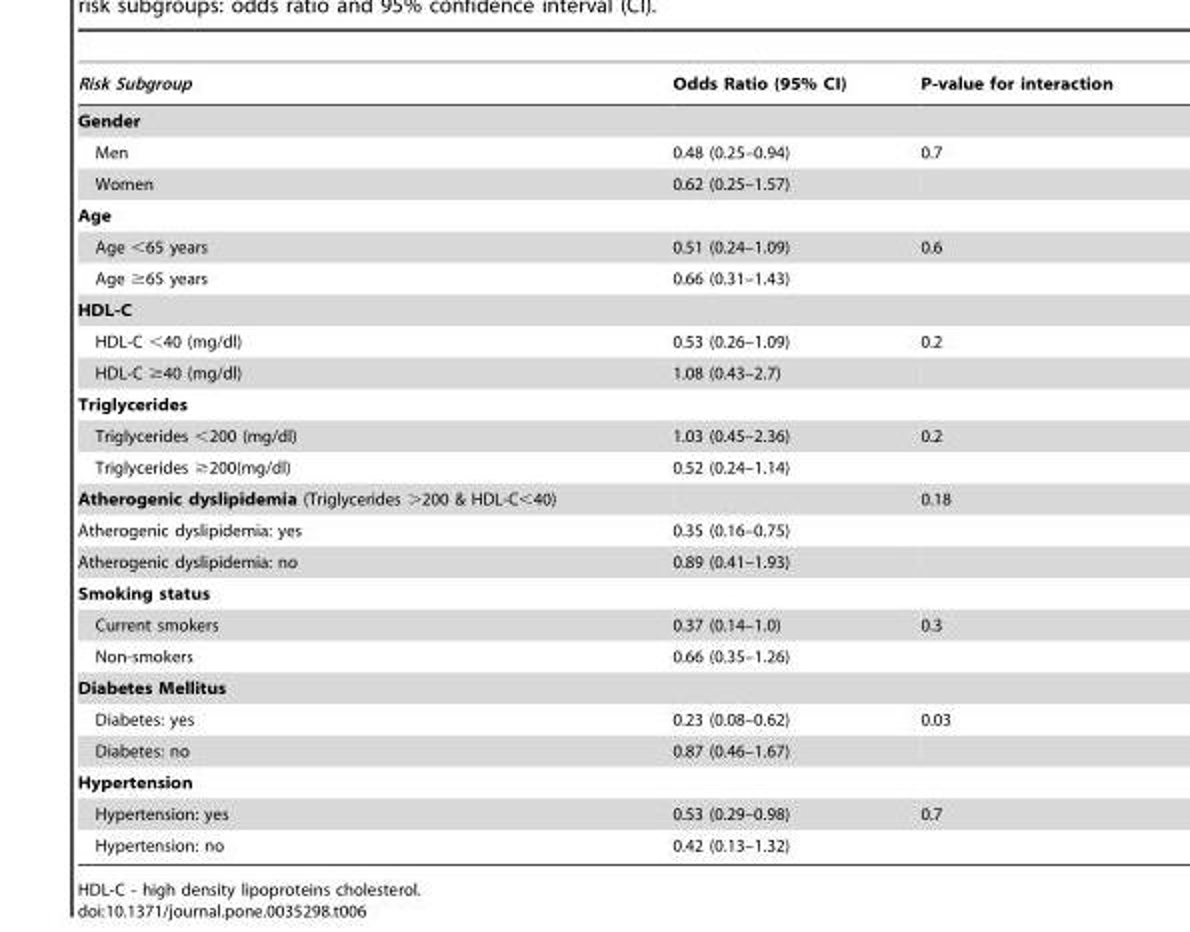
<table><thead><tr><td>Risk Subgroup</td><td>Odds Ratio (95% CI)</td><td>P-value for interaction</td></tr></thead><tbody><tr><td colspan="3">Gender</td></tr><tr><td>Men</td><td>0.48 (0.25–0.94)</td><td>0.7</td></tr><tr><td>Women</td><td>0.62 (0.25–1.57)</td><td></td></tr><tr><td colspan="3">Age</td></tr><tr><td>Age &lt;65 years</td><td>0.51 (0.24–1.09)</td><td>0.6</td></tr><tr><td>Age ≥65 years</td><td>0.66 (0.31–1.43)</td><td></td></tr><tr><td colspan="3">HDL-C</td></tr><tr><td>HDL-C &lt;40 (mg/dl)</td><td>0.53 (0.26–1.09)</td><td>0.2</td></tr><tr><td>HDL-C ≥40 (mg/dl)</td><td>1.08 (0.43–2.7)</td><td></td></tr><tr><td colspan="3">Triglycerides</td></tr><tr><td>Triglycerides &lt;200 (mg/dl)</td><td>1.03 (0.45–2.36)</td><td>0.2</td></tr><tr><td>Triglycerides ≥200(mg/dl)</td><td>0.52 (0.24–1.14)</td><td></td></tr><tr><td>Atherogenic dyslipidemia (Triglycerides &gt;200 &amp; HDL-C&lt;40)</td><td></td><td>0.18</td></tr><tr><td>Atherogenic dyslipidemia: yes</td><td>0.35 (0.16–0.75)</td><td></td></tr><tr><td>Atherogenic dyslipidemia: no</td><td>0.89 (0.41–1.93)</td><td></td></tr><tr><td colspan="3">Smoking status</td></tr><tr><td>Current smokers</td><td>0.37 (0.14–1.0)</td><td>0.3</td></tr><tr><td>Non-smokers</td><td>0.66 (0.35–1.26)</td><td></td></tr><tr><td colspan="3">Diabetes Mellitus</td></tr><tr><td>Diabetes: yes</td><td>0.23 (0.08–0.62)</td><td>0.03</td></tr><tr><td>Diabetes: no</td><td>0.87 (0.46–1.67)</td><td></td></tr><tr><td colspan="3">Hypertension</td></tr><tr><td>Hypertension: yes</td><td>0.53 (0.29–0.98)</td><td>0.7</td></tr><tr><td>Hypertension: no</td><td>0.42 (0.13–1.32)</td><td></td></tr></tbody></table>